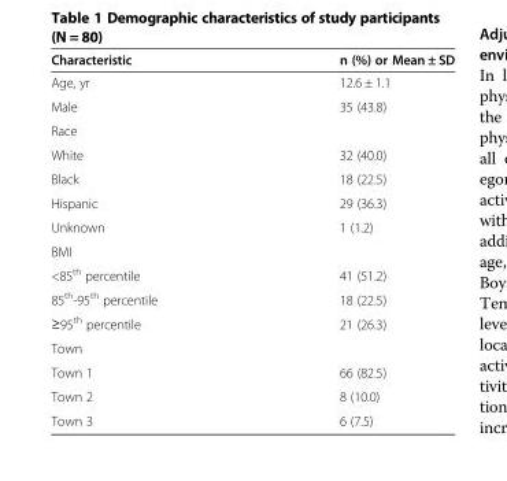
<table><thead><tr><td>Characteristic</td><td>n (%) or Mean ± SD</td></tr></thead><tbody><tr><td>Age, yr</td><td>12.6 ± 1.1</td></tr><tr><td>Male</td><td>35 (43.8)</td></tr><tr><td colspan="2">Race</td></tr><tr><td>White</td><td>32 (40.0)</td></tr><tr><td>Black</td><td>18 (22.5)</td></tr><tr><td>Hispanic</td><td>29 (36.3)</td></tr><tr><td>Unknown</td><td>1 (1.2)</td></tr><tr><td colspan="2">BMI</td></tr><tr><td>&lt;85<sup>th</sup> percentile</td><td>41 (51.2)</td></tr><tr><td>85<sup>th</sup>-95<sup>th</sup> percentile</td><td>18 (22.5)</td></tr><tr><td>≥95<sup>th</sup> percentile</td><td>21 (26.3)</td></tr><tr><td colspan="2">Town</td></tr><tr><td>Town 1</td><td>66 (82.5)</td></tr><tr><td>Town 2</td><td>8 (10.0)</td></tr><tr><td>Town 3</td><td>6 (7.5)</td></tr></tbody></table>